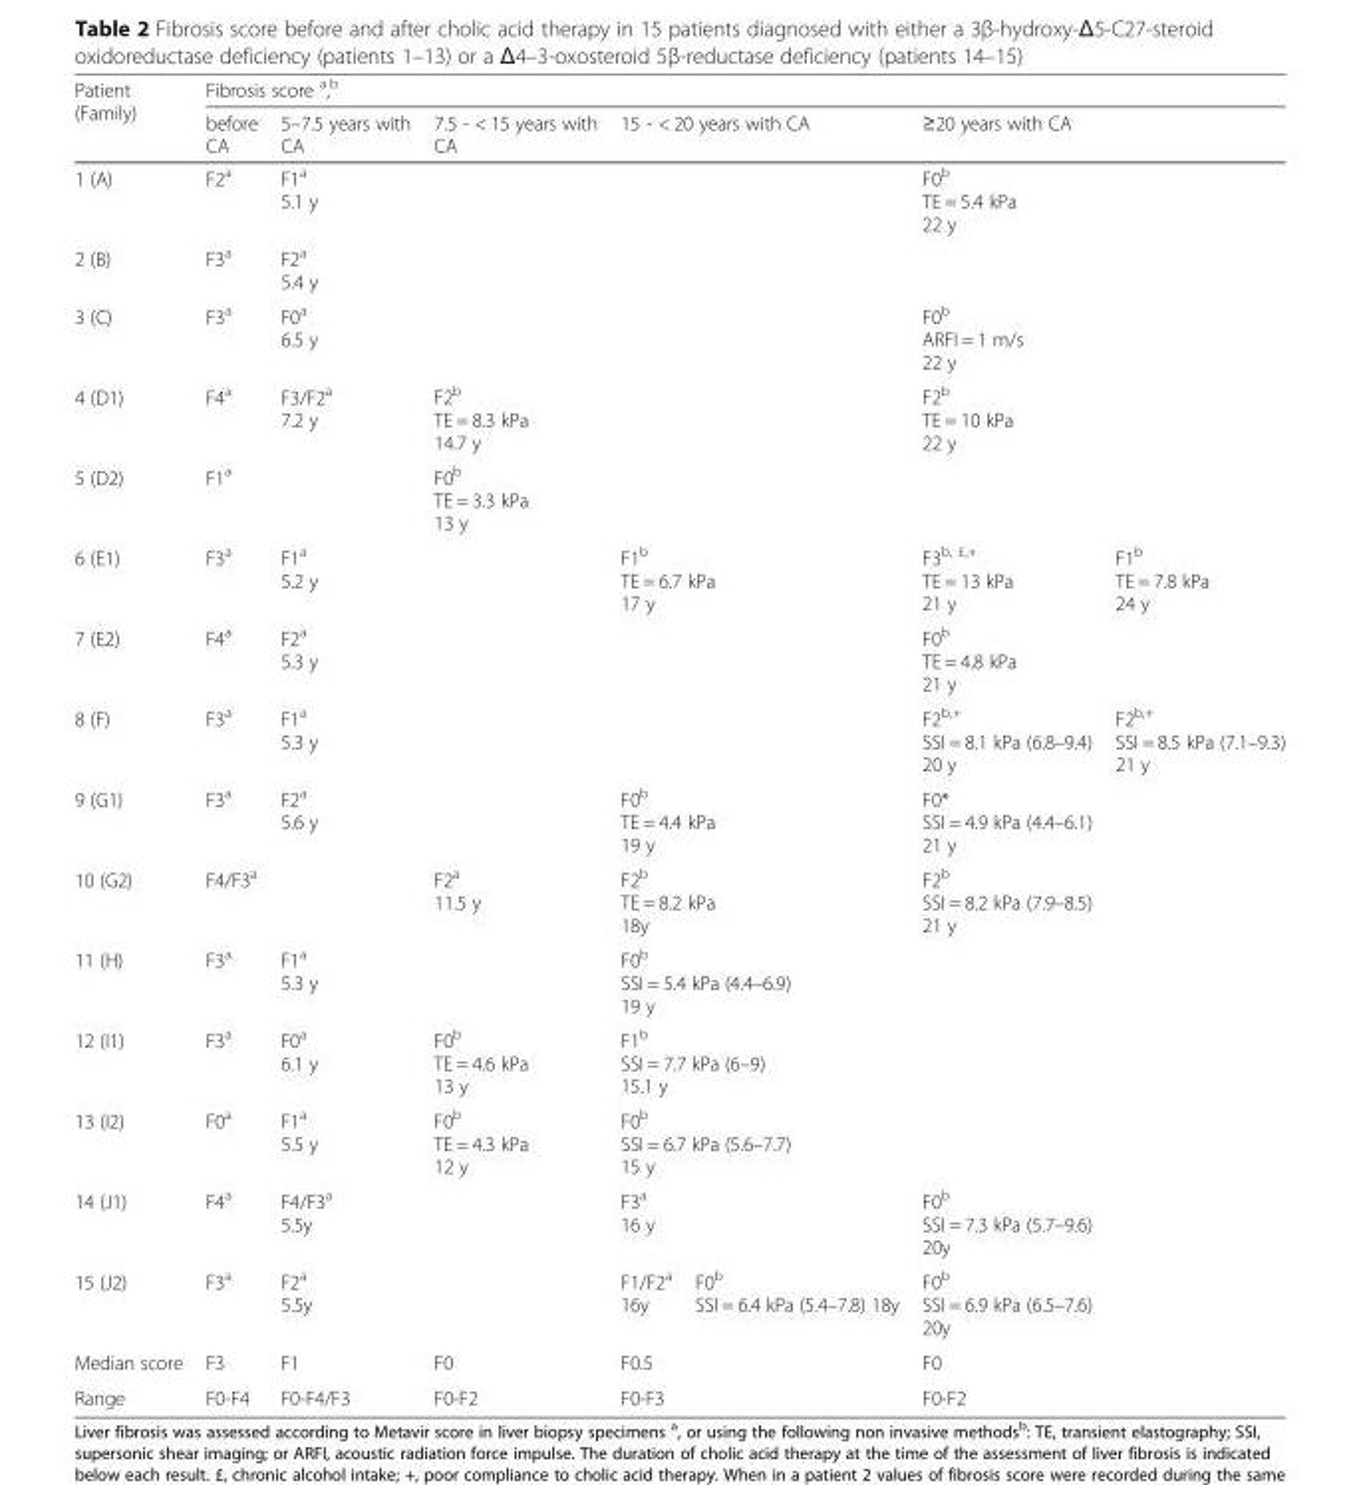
<table><thead><tr><td rowspan="2">Patient (Family)</td><td colspan="7">Fibrosis score <sup>a</sup>,<sup>b</sup></td></tr><tr><td>before CA</td><td>5–7.5 years with CA</td><td>7.5 - &lt; 15 years with CA</td><td colspan="2">15 - &lt; 20 years with CA</td><td colspan="2">≥20 years with CA</td></tr></thead><tbody><tr><td>1 (A)</td><td>F2<sup>a</sup></td><td>F1<sup>a</sup> 5.1 y</td><td></td><td colspan="2"></td><td colspan="2">F0<sup>b</sup> TE = 5.4 kPa 22 y</td></tr><tr><td>2 (B)</td><td>F3<sup>a</sup></td><td>F2<sup>a</sup> 5.4 y</td><td></td><td colspan="2"></td><td colspan="2"></td></tr><tr><td>3 (C)</td><td>F3<sup>a</sup></td><td>F0<sup>a</sup> 6.5 y</td><td></td><td colspan="2"></td><td colspan="2">F0<sup>b</sup> ARFI = 1 m/s 22 y</td></tr><tr><td>4 (D1)</td><td>F4<sup>a</sup></td><td>F3/F2<sup>a</sup> 7.2 y</td><td>F2<sup>b</sup> TE = 8.3 kPa 14.7 y</td><td colspan="2"></td><td colspan="2">F2<sup>b</sup> TE = 10 kPa 22 y</td></tr><tr><td>5 (D2)</td><td>F1<sup>a</sup></td><td></td><td>F0<sup>b</sup> TE = 3.3 kPa 13 y</td><td colspan="2"></td><td colspan="2"></td></tr><tr><td>6 (E1)</td><td>F3<sup>a</sup></td><td>F1<sup>a</sup> 5.2 y</td><td></td><td colspan="2">F1<sup>b</sup> TE = 6.7 kPa 17 y</td><td>F3<sup>b, £,+</sup> TE = 13 kPa 21 y</td><td>F1<sup>b</sup> TE = 7.8 kPa 24 y</td></tr><tr><td>7 (E2)</td><td>F4<sup>a</sup></td><td>F2<sup>a</sup> 5.3 y</td><td></td><td colspan="2"></td><td colspan="2">F0<sup>b</sup> TE = 4.8 kPa 21 y</td></tr><tr><td>8 (F)</td><td>F3<sup>a</sup></td><td>F1<sup>a</sup> 5.3 y</td><td></td><td colspan="2"></td><td>F2<sup>b,+</sup> SSI = 8.1 kPa (6.8–9.4) 20 y</td><td>F2<sup>b,+</sup> SSI = 8.5 kPa (7.1–9.3) 21 y</td></tr><tr><td>9 (G1)</td><td>F3<sup>a</sup></td><td>F2<sup>a</sup> 5.6 y</td><td></td><td colspan="2">F0<sup>b</sup> TE = 4.4 kPa 19 y</td><td colspan="2">F0* SSI = 4.9 kPa (4.4–6.1) 21 y</td></tr><tr><td>10 (G2)</td><td>F4/F3<sup>a</sup></td><td></td><td>F2<sup>a</sup> 11.5 y</td><td colspan="2">F2<sup>b</sup> TE = 8.2 kPa 18y</td><td colspan="2">F2<sup>b</sup> SSI = 8.2 kPa (7.9–8.5) 21 y</td></tr><tr><td>11 (H)</td><td>F3<sup>a</sup></td><td>F1<sup>a</sup> 5.3 y</td><td></td><td colspan="2">F0<sup>b</sup> SSI = 5.4 kPa (4.4–6.9) 19 y</td><td colspan="2"></td></tr><tr><td>12 (I1)</td><td>F3<sup>a</sup></td><td>F0<sup>a</sup> 6.1 y</td><td>F0<sup>b</sup> TE = 4.6 kPa 13 y</td><td colspan="2">F1<sup>b</sup> SSI = 7.7 kPa (6–9) 15.1 y</td><td colspan="2"></td></tr><tr><td>13 (I2)</td><td>F0<sup>a</sup></td><td>F1<sup>a</sup> 5.5 y</td><td>F0<sup>b</sup> TE = 4.3 kPa 12 y</td><td colspan="2">F0<sup>b</sup> SSI = 6.7 kPa (5.6–7.7) 15 y</td><td colspan="2"></td></tr><tr><td>14 (J1)</td><td>F4<sup>a</sup></td><td>F4/F3<sup>a</sup> 5.5y</td><td></td><td colspan="2">F3<sup>a</sup> 16 y</td><td colspan="2">F0<sup>b</sup> SSI = 7.3 kPa (5.7–9.6) 20y</td></tr><tr><td>15 (J2)</td><td>F3<sup>a</sup></td><td>F2<sup>a</sup> 5.5y</td><td></td><td>F1/F2<sup>a</sup> 16y</td><td>F0<sup>b</sup> SSI = 6.4 kPa (5.4–7.8) 18y</td><td colspan="2">F0<sup>b</sup> SSI = 6.9 kPa (6.5–7.6) 20y</td></tr><tr><td>Median score</td><td>F3</td><td>F1</td><td>F0</td><td colspan="2">F0.5</td><td colspan="2">F0</td></tr><tr><td>Range</td><td>F0-F4</td><td>F0-F4/F3</td><td>F0-F2</td><td colspan="2">F0-F3</td><td colspan="2">F0-F2</td></tr></tbody></table>